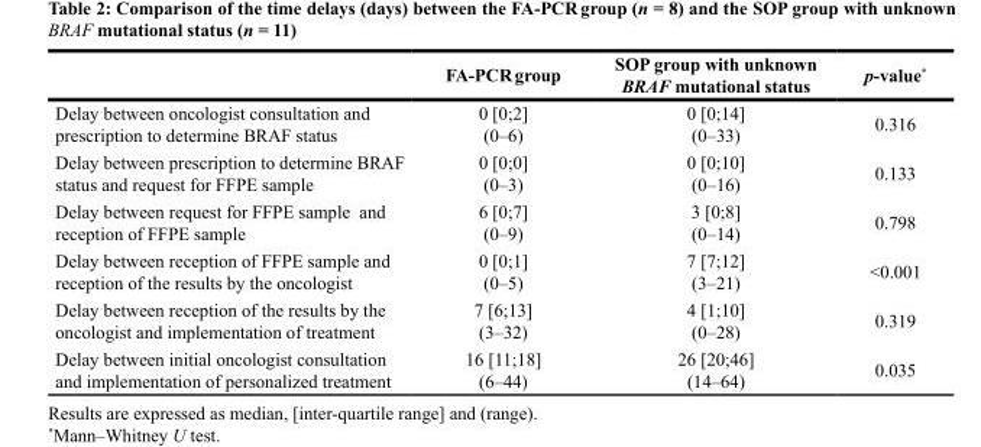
<table><thead><tr><td></td><td>FA-PCR group</td><td>SOP group with unknown BRAF mutational status</td><td>p-value*</td></tr></thead><tbody><tr><td>Delay between oncologist consultation and prescription to determine BRAF status</td><td>0 [0;2] (0–6)</td><td>0 [0;14] (0–33)</td><td>0.316</td></tr><tr><td>Delay between prescription to determine BRAF status and request for FFPE sample</td><td>0 [0;0] (0–3)</td><td>0 [0;10] (0–16)</td><td>0.133</td></tr><tr><td>Delay between request for FFPE sample and reception of FFPE sample</td><td>6 [0;7] (0–9)</td><td>3 [0;8] (0–14)</td><td>0.798</td></tr><tr><td>Delay between reception of FFPE sample and reception of the results by the oncologist</td><td>0 [0;1] (0–5)</td><td>7 [7;12] (3–21)</td><td>&lt;0.001</td></tr><tr><td>Delay between reception of the results by the oncologist and implementation of treatment</td><td>7 [6;13] (3–32)</td><td>4 [1;10] (0–28)</td><td>0.319</td></tr><tr><td>Delay between initial oncologist consultation and implementation of personalized treatment</td><td>16 [11;18] (6–44)</td><td>26 [20;46] (14–64)</td><td>0.035</td></tr></tbody></table>